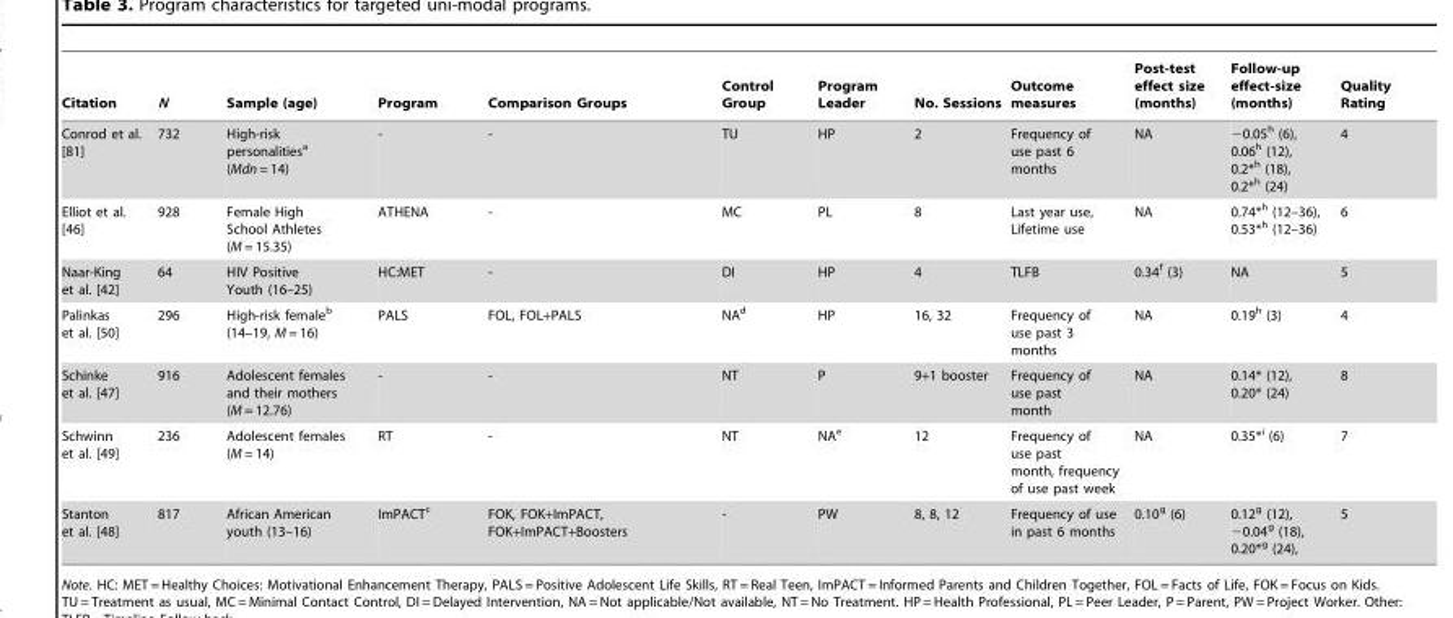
<table><thead><tr><td>Citation</td><td>N</td><td>Sample (age)</td><td>Program</td><td>Comparison Groups</td><td>Control Group</td><td>Program Leader</td><td>No. Sessions</td><td>Outcome measures</td><td>Post-test effect size (months)</td><td>Follow-up effect-size (months)</td><td>Quality Rating</td></tr></thead><tbody><tr><td>Conrod et al. [81]</td><td>732</td><td>High-risk personalities<sup>a</sup> (Mdn = 14)</td><td>-</td><td>-</td><td>TU</td><td>HP</td><td>2</td><td>Frequency of use past 6 months</td><td>NA</td><td>−0.05<sup>h</sup> (6), 0.06<sup>h</sup> (12), 0.2*h (18), 0.2*h (24)</td><td>4</td></tr><tr><td>Elliot et al. [46]</td><td>928</td><td>Female High School Athletes (M = 15.35)</td><td>ATHENA</td><td>-</td><td>MC</td><td>PL</td><td>8</td><td>Last year use, Lifetime use</td><td>NA</td><td>0.74*h (12–36), 0.53*h (12–36)</td><td>6</td></tr><tr><td>Naar-King et al. [42]</td><td>64</td><td>HIV Positive Youth (16–25)</td><td>HC:MET</td><td>-</td><td>DI</td><td>HP</td><td>4</td><td>TLFB</td><td>0.34<sup>f</sup> (3)</td><td>NA</td><td>5</td></tr><tr><td>Palinkas et al. [50]</td><td>296</td><td>High-risk female<sup>b</sup> (14–19, M = 16)</td><td>PALS</td><td>FOL, FOL+PALS</td><td>NA<sup>d</sup></td><td>HP</td><td>16, 32</td><td>Frequency of use past 3 months</td><td>NA</td><td>0.19<sup>h</sup> (3)</td><td>4</td></tr><tr><td>Schinke et al. [47]</td><td>916</td><td>Adolescent females and their mothers (M = 12.76)</td><td>-</td><td>-</td><td>NT</td><td>P</td><td>9+1 booster</td><td>Frequency of use past month</td><td>NA</td><td>0.14* (12), 0.20* (24)</td><td>8</td></tr><tr><td>Schwinn et al. [49]</td><td>236</td><td>Adolescent females (M = 14)</td><td>RT</td><td>-</td><td>NT</td><td>NA<sup>e</sup></td><td>12</td><td>Frequency of use past month, frequency of use past week</td><td>NA</td><td>0.35*i (6)</td><td>7</td></tr><tr><td>Stanton et al. [48]</td><td>817</td><td>African American youth (13–16)</td><td>ImPACT<sup>c</sup></td><td>FOK, FOK+ImPACT, FOK+ImPACT+Boosters</td><td>-</td><td>PW</td><td>8, 8, 12</td><td>Frequency of use in past 6 months</td><td>0.10<sup>g</sup> (6)</td><td>0.12<sup>g</sup> (12), −0.04<sup>g</sup> (18), 0.20*g (24),</td><td>5</td></tr></tbody></table>